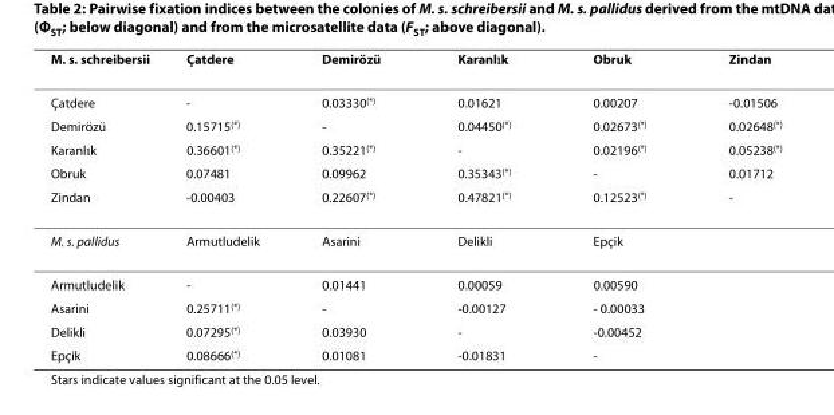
<table><thead><tr><td>M. s. schreibersii</td><td>Çatdere</td><td>Demirözü</td><td>Karanlık</td><td>Obruk</td><td>Zindan</td></tr></thead><tbody><tr><td>Çatdere</td><td>-</td><td>0.03330<sup>(*)</sup></td><td>0.01621</td><td>0.00207</td><td>-0.01506</td></tr><tr><td>Demirözü</td><td>0.15715<sup>(*)</sup></td><td>-</td><td>0.04450<sup>(*)</sup></td><td>0.02673<sup>(*)</sup></td><td>0.02648<sup>(*)</sup></td></tr><tr><td>Karanlık</td><td>0.36601<sup>(*)</sup></td><td>0.35221<sup>(*)</sup></td><td>-</td><td>0.02196<sup>(*)</sup></td><td>0.05238<sup>(*)</sup></td></tr><tr><td>Obruk</td><td>0.07481</td><td>0.09962</td><td>0.35343<sup>(*)</sup></td><td>-</td><td>0.01712</td></tr><tr><td>Zindan</td><td>-0.00403</td><td>0.22607<sup>(*)</sup></td><td>0.47821<sup>(*)</sup></td><td>0.12523<sup>(*)</sup></td><td>-</td></tr><tr><td>M. s. pallidus</td><td>Armutludelik</td><td>Asarini</td><td>Delikli</td><td>Epçik</td><td></td></tr><tr><td>Armutludelik</td><td>-</td><td>0.01441</td><td>0.00059</td><td>0.00590</td><td></td></tr><tr><td>Asarini</td><td>0.25711<sup>(*)</sup></td><td>-</td><td>-0.00127</td><td>- 0.00033</td><td></td></tr><tr><td>Delikli</td><td>0.07295<sup>(*)</sup></td><td>0.03930</td><td>-</td><td>-0.00452</td><td></td></tr><tr><td>Epçik</td><td>0.08666<sup>(*)</sup></td><td>0.01081</td><td>-0.01831</td><td>-</td><td></td></tr></tbody></table>